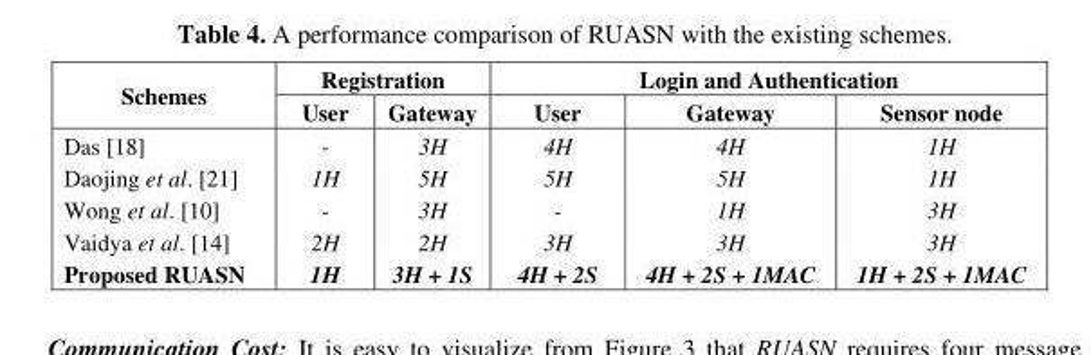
<table><thead><tr><td rowspan="2">Schemes</td><td colspan="2">Registration</td><td colspan="3">Login and Authentication</td></tr><tr><td>User</td><td>Gateway</td><td>User</td><td>Gateway</td><td>Sensor node</td></tr></thead><tbody><tr><td>Das [18]</td><td>-</td><td>3H</td><td>4H</td><td>4H</td><td>1H</td></tr><tr><td>Daojing et al. [21]</td><td>1H</td><td>5H</td><td>5H</td><td>5H</td><td>1H</td></tr><tr><td>Wong et al. [10]</td><td>-</td><td>3H</td><td>-</td><td>1H</td><td>3H</td></tr><tr><td>Vaidya et al. [14]</td><td>2H</td><td>2H</td><td>3H</td><td>3H</td><td>3H</td></tr><tr><td>Proposed RUASN</td><td>1H</td><td>3H + 1S</td><td>4H + 2S</td><td>4H + 2S + 1MAC</td><td>1H + 2S + 1MAC</td></tr></tbody></table>